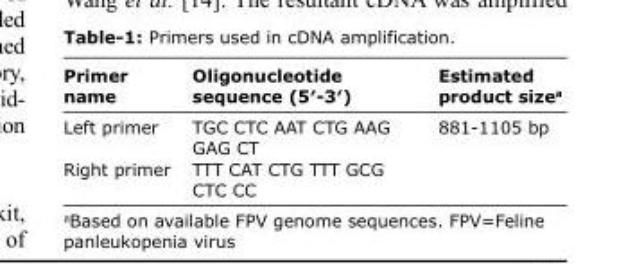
<table><thead><tr><td>Primer name</td><td>Oligonucleotide sequence (5′‑3′)</td><td>Estimated product size<sup>a</sup></td></tr></thead><tbody><tr><td>Left primer</td><td>TGC CTC AAT CTG AAG GAG CT</td><td>881-1105 bp</td></tr><tr><td>Right primer</td><td>TTT CAT CTG TTT GCG CTC CC</td><td></td></tr></tbody></table>